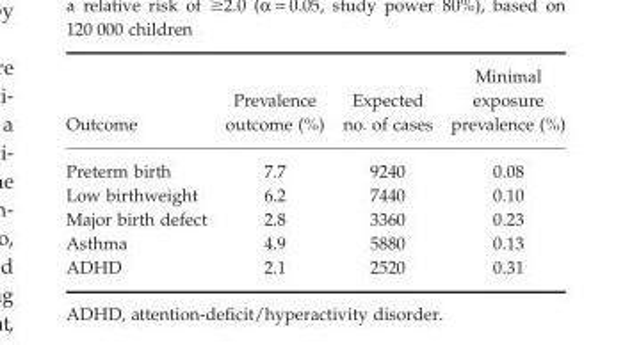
<table><thead><tr><td>Outcome</td><td>Prevalence outcome (%)</td><td>Expected no. of cases</td><td>Minimal exposure prevalence (%)</td></tr></thead><tbody><tr><td>Preterm birth</td><td>7.7</td><td>9240</td><td>0.08</td></tr><tr><td>Low birthweight</td><td>6.2</td><td>7440</td><td>0.10</td></tr><tr><td>Major birth defect</td><td>2.8</td><td>3360</td><td>0.23</td></tr><tr><td>Asthma</td><td>4.9</td><td>5880</td><td>0.13</td></tr><tr><td>ADHD</td><td>2.1</td><td>2520</td><td>0.31</td></tr></tbody></table>